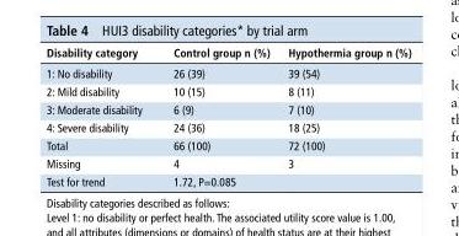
<table><thead><tr><td>Disability category</td><td>Control group n (%)</td><td>hypothermia group n (%)</td></tr></thead><tbody><tr><td>1: No disability</td><td>26 (39)</td><td>39 (54)</td></tr><tr><td>2: Mild disability</td><td>10 (15)</td><td>8 (11)</td></tr><tr><td>3: Moderate disability</td><td>6 (9)</td><td>7 (10)</td></tr><tr><td>4: Severe disability</td><td>24 (36)</td><td>18 (25)</td></tr><tr><td>Total</td><td>66 (100)</td><td>72 (100)</td></tr><tr><td>Missing</td><td>4</td><td>3</td></tr><tr><td>Test for trend</td><td colspan="2">1.72, P=0.085</td></tr></tbody></table>